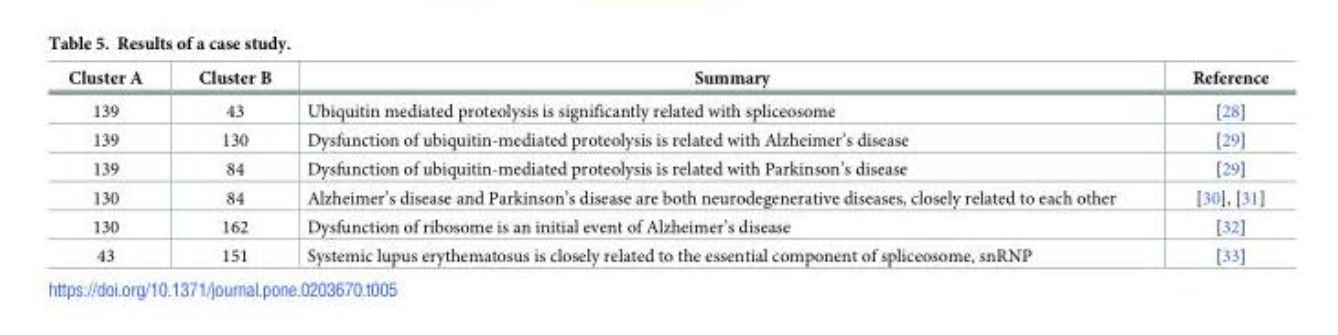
<table><thead><tr><td>Cluster A</td><td>Cluster B</td><td>Summary</td><td>Reference</td></tr></thead><tbody><tr><td>139</td><td>43</td><td>Ubiquitin mediated proteolysis is significantly related with spliceosome</td><td>[28]</td></tr><tr><td>139</td><td>130</td><td>Dysfunction of ubiquitin-mediated proteolysis is related with Alzheimer’s disease</td><td>[29]</td></tr><tr><td>139</td><td>84</td><td>Dysfunction of ubiquitin-mediated proteolysis is related with Parkinson’s disease</td><td>[29]</td></tr><tr><td>130</td><td>84</td><td>Alzheimer’s disease and Parkinson’s disease are both neurodegenerative diseases, closely related to each other</td><td>[30], [31]</td></tr><tr><td>130</td><td>162</td><td>Dysfunction of ribosome is an initial event of Alzheimer’s disease</td><td>[32]</td></tr><tr><td>43</td><td>151</td><td>Systemic lupus erythematosus is closely related to the essential component of spliceosome, snRNP</td><td>[33]</td></tr></tbody></table>